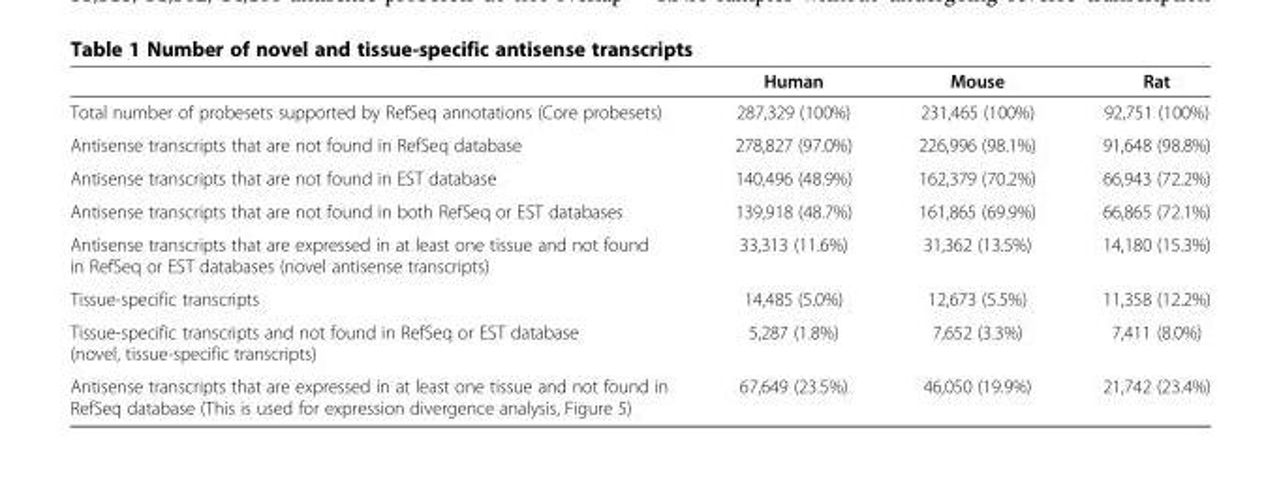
<table><thead><tr><td></td><td>Human</td><td>Mouse</td><td>Rat</td></tr></thead><tbody><tr><td>Total number of probesets supported by RefSeq annotations (Core probesets)</td><td>287,329 (100%)</td><td>231,465 (100%)</td><td>92,751 (100%)</td></tr><tr><td>Antisense transcripts that are not found in RefSeq database</td><td>278,827 (97.0%)</td><td>226,996 (98.1%)</td><td>91,648 (98.8%)</td></tr><tr><td>Antisense transcripts that are not found in EST database</td><td>140,496 (48.9%)</td><td>162,379 (70.2%)</td><td>66,943 (72.2%)</td></tr><tr><td>Antisense transcripts that are not found in both RefSeq or EST databases</td><td>139,918 (48.7%)</td><td>161,865 (69.9%)</td><td>66,865 (72.1%)</td></tr><tr><td>Antisense transcripts that are expressed in at least one tissue and not found in RefSeq or EST databases (novel antisense transcripts)</td><td>33,313 (11.6%)</td><td>31,362 (13.5%)</td><td>14,180 (15.3%)</td></tr><tr><td>Tissue-specific transcripts</td><td>14,485 (5.0%)</td><td>12,673 (5.5%)</td><td>11,358 (12.2%)</td></tr><tr><td>Tissue-specific transcripts and not found in RefSeq or EST database (novel, tissue-specific transcripts)</td><td>5,287 (1.8%)</td><td>7,652 (3.3%)</td><td>7,411 (8.0%)</td></tr><tr><td>Antisense transcripts that are expressed in at least one tissue and not found in RefSeq database (This is used for expression divergence analysis, Figure 5)</td><td>67,649 (23.5%)</td><td>46,050 (19.9%)</td><td>21,742 (23.4%)</td></tr></tbody></table>